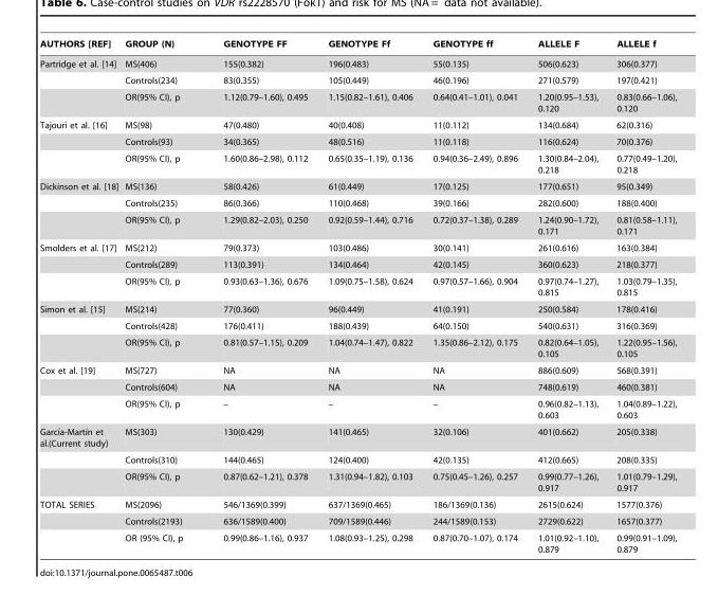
<table><thead><tr><td>AUTHORS [REF]</td><td>GROUP (N)</td><td>GENOTYPE FF</td><td>GENOTYPE Ff</td><td>GENOTYPE ff</td><td>ALLELE F</td><td>ALLELE f</td></tr></thead><tbody><tr><td rowspan="3">Partridge et al. [14]</td><td>MS(406)</td><td>155(0.382)</td><td>196(0.483)</td><td>55(0.135)</td><td>506(0.623)</td><td>306(0.377)</td></tr><tr><td>Controls(234)</td><td>83(0.355)</td><td>105(0.449)</td><td>46(0.196)</td><td>271(0.579)</td><td>197(0.421)</td></tr><tr><td>OR(95% CI), p</td><td>1.12(0.79–1.60), 0.495</td><td>1.15(0.82–1.61), 0.406</td><td>0.64(0.41–1.01), 0.041</td><td>1.20(0.95–1.53), 0.120</td><td>0.83(0.66–1.06), 0.120</td></tr><tr><td rowspan="3">Tajouri et al. [16]</td><td>MS(98)</td><td>47(0.480)</td><td>40(0.408)</td><td>11(0.112)</td><td>134(0.684)</td><td>62(0.316)</td></tr><tr><td>Controls(93)</td><td>34(0.365)</td><td>48(0.516)</td><td>11(0.118)</td><td>116(0.624)</td><td>70(0.376)</td></tr><tr><td>OR(95% CI), p</td><td>1.60(0.86–2.98), 0.112</td><td>0.65(0.35–1.19), 0.136</td><td>0.94(0.36–2.49), 0.896</td><td>1.30(0.84–2.04), 0.218</td><td>0.77(0.49–1.20), 0.218</td></tr><tr><td rowspan="3">Dickinson et al. [18]</td><td>MS(136)</td><td>58(0.426)</td><td>61(0.449)</td><td>17(0.125)</td><td>177(0.651)</td><td>95(0.349)</td></tr><tr><td>Controls(235)</td><td>86(0.366)</td><td>110(0.468)</td><td>39(0.166)</td><td>282(0.600)</td><td>188(0.400)</td></tr><tr><td>OR(95% CI), p</td><td>1.29(0.82–2.03), 0.250</td><td>0.92(0.59–1.44), 0.716</td><td>0.72(0.37–1.38), 0.289</td><td>1.24(0.90–1.72), 0.171</td><td>0.81(0.58–1.11), 0.171</td></tr><tr><td rowspan="3">Smolders et al. [17]</td><td>MS(212)</td><td>79(0.373)</td><td>103(0.486)</td><td>30(0.141)</td><td>261(0.616)</td><td>163(0.384)</td></tr><tr><td>Controls(289)</td><td>113(0.391)</td><td>134(0.464)</td><td>42(0.145)</td><td>360(0.623)</td><td>218(0.377)</td></tr><tr><td>OR(95% CI), p</td><td>0.93(0.63–1.36), 0.676</td><td>1.09(0.75–1.58), 0.624</td><td>0.97(0.57–1.66), 0.904</td><td>0.97(0.74–1.27), 0.815</td><td>1.03(0.79–1.35), 0.815</td></tr><tr><td rowspan="3">Simon et al. [15]</td><td>MS(214)</td><td>77(0.360)</td><td>96(0.449)</td><td>41(0.191)</td><td>250(0.584)</td><td>178(0.416)</td></tr><tr><td>Controls(428)</td><td>176(0.411)</td><td>188(0.439)</td><td>64(0.150)</td><td>540(0.631)</td><td>316(0.369)</td></tr><tr><td>OR(95% CI), p</td><td>0.81(0.57–1.15), 0.209</td><td>1.04(0.74–1.47), 0.822</td><td>1.35(0.86–2.12), 0.175</td><td>0.82(0.64–1.05), 0.105</td><td>1.22(0.95–1.56), 0.105</td></tr><tr><td rowspan="3">Cox et al. [19]</td><td>MS(727)</td><td>NA</td><td>NA</td><td>NA</td><td>886(0.609)</td><td>568(0.391)</td></tr><tr><td>Controls(604)</td><td>NA</td><td>NA</td><td>NA</td><td>748(0.619)</td><td>460(0.381)</td></tr><tr><td>OR(95% CI), p</td><td>–</td><td>–</td><td>–</td><td>0.96(0.82–1.13), 0.603</td><td>1.04(0.89–1.22), 0.603</td></tr><tr><td rowspan="3">Garcı´a-Martı´n et al.(Current study)</td><td>MS(303)</td><td>130(0.429)</td><td>141(0.465)</td><td>32(0.106)</td><td>401(0.662)</td><td>205(0.338)</td></tr><tr><td>Controls(310)</td><td>144(0.465)</td><td>124(0.400)</td><td>42(0.135)</td><td>412(0.665)</td><td>208(0.335)</td></tr><tr><td>OR(95% CI), p</td><td>0.87(0.62–1.21), 0.378</td><td>1.31(0.94–1.82), 0.103</td><td>0.75(0.45–1.26), 0.257</td><td>0.99(0.77–1.26), 0.917</td><td>1.01(0.79–1.29), 0.917</td></tr><tr><td rowspan="3">TOTAL SERIES</td><td>MS(2096)</td><td>546/1369(0.399)</td><td>637/1369(0.465)</td><td>186/1369(0.136)</td><td>2615(0.624)</td><td>1577(0.376)</td></tr><tr><td>Controls(2193)</td><td>636/1589(0.400)</td><td>709/1589(0.446)</td><td>244/1589(0.153)</td><td>2729(0.622)</td><td>1657(0.377)</td></tr><tr><td>OR (95% CI), p</td><td>0.99(0.86–1.16), 0.937</td><td>1.08(0.93–1.25), 0.298</td><td>0.87(0.70–1.07), 0.174</td><td>1.01(0.92–1.10), 0.879</td><td>0.99(0.91–1.09), 0.879</td></tr></tbody></table>